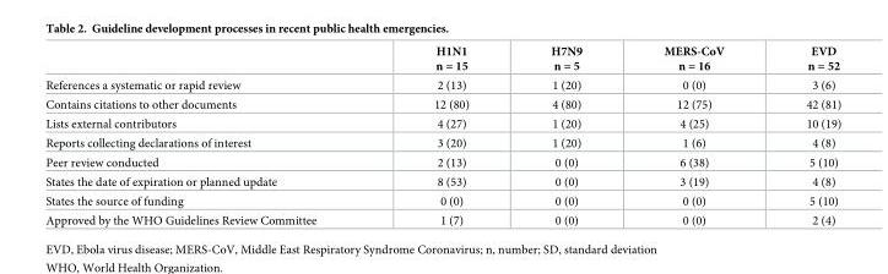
<table><thead><tr><td></td><td>H1N1 n = 15</td><td>H7N9 n = 5</td><td>MERS-CoV n = 16</td><td>EVD n = 52</td></tr></thead><tbody><tr><td>References a systematic or rapid review</td><td>2 (13)</td><td>1 (20)</td><td>0 (0)</td><td>3 (6)</td></tr><tr><td>Contains citations to other documents</td><td>12 (80)</td><td>4 (80)</td><td>12 (75)</td><td>42 (81)</td></tr><tr><td>Lists external contributors</td><td>4 (27)</td><td>1 (20)</td><td>4 (25)</td><td>10 (19)</td></tr><tr><td>Reports collecting declarations of interest</td><td>3 (20)</td><td>1 (20)</td><td>1 (6)</td><td>4 (8)</td></tr><tr><td>Peer review conducted</td><td>2 (13)</td><td>0 (0)</td><td>6 (38)</td><td>5 (10)</td></tr><tr><td>States the date of expiration or planned update</td><td>8 (53)</td><td>0 (0)</td><td>3 (19)</td><td>4 (8)</td></tr><tr><td>States the source of funding</td><td>0 (0)</td><td>0 (0)</td><td>0 (0)</td><td>5 (10)</td></tr><tr><td>Approved by the WHO Guidelines Review Committee</td><td>1 (7)</td><td>0 (0)</td><td>0 (0)</td><td>2 (4)</td></tr></tbody></table>